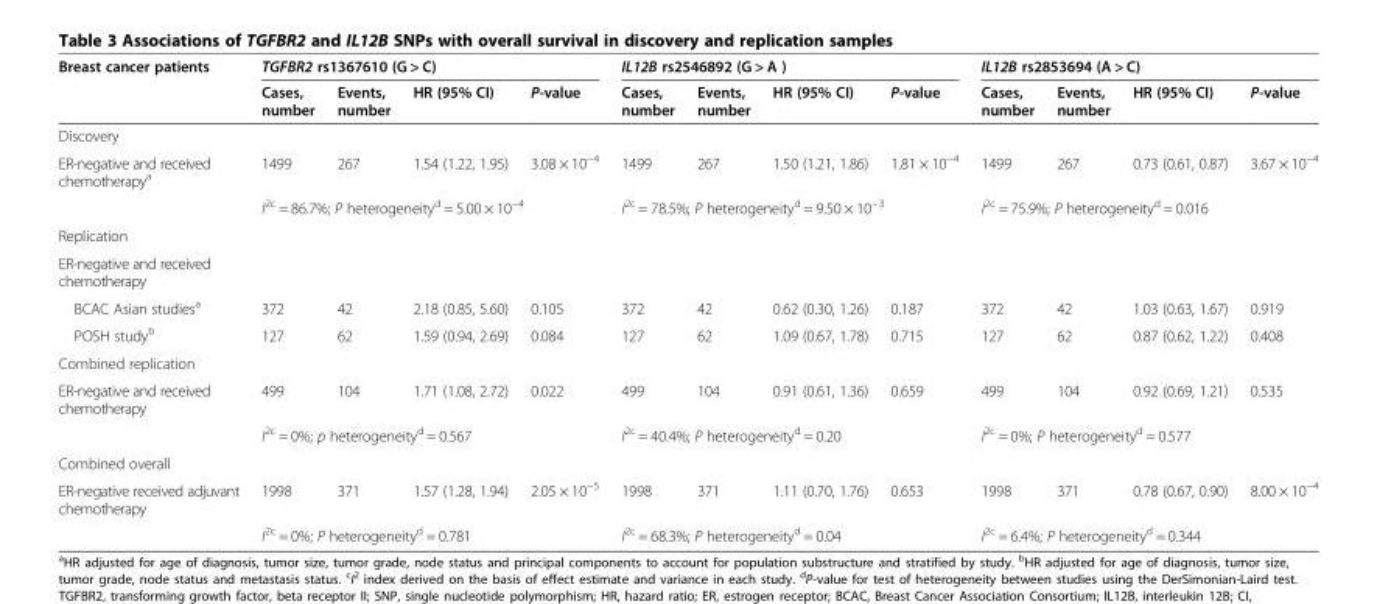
<table><thead><tr><td rowspan="2">Breast cancer patients</td><td colspan="4">TGFBR2 rs1367610 (G &gt; C)</td><td colspan="4">IL12B rs2546892 (G &gt; A )</td><td colspan="4">IL12B rs2853694 (A &gt; C)</td></tr><tr><td>Cases, number</td><td>Events, number</td><td>HR (95% CI)</td><td>P-value</td><td>Cases, number</td><td>Events, number</td><td>HR (95% CI)</td><td>P-value</td><td>Cases, number</td><td>Events, number</td><td>HR (95% CI)</td><td>P-value</td></tr></thead><tbody><tr><td colspan="13">Discovery</td></tr><tr><td rowspan="2">ER-negative and received chemotherapy<sup>a</sup></td><td>1499</td><td>267</td><td>1.54 (1.22, 1.95)</td><td>3.08 × 10<sup>−4</sup></td><td>1499</td><td>267</td><td>1.50 (1.21, 1.86)</td><td>1.81 × 10<sup>−4</sup></td><td>1499</td><td>267</td><td>0.73 (0.61, 0.87)</td><td>3.67 × 10<sup>−4</sup></td></tr><tr><td colspan="4">I<sup>2c</sup> = 86.7%; P heterogeneity<sup>d</sup> = 5.00 × 10<sup>−4</sup></td><td colspan="4">I<sup>2c</sup> = 78.5%; P heterogeneity<sup>d</sup> = 9.50 × 10<sup>−3</sup></td><td colspan="4">I<sup>2c</sup> = 75.9%; P heterogeneity<sup>d</sup> = 0.016</td></tr><tr><td colspan="13">Replication</td></tr><tr><td colspan="13">ER-negative and received chemotherapy</td></tr><tr><td>BCAC Asian studies<sup>a</sup></td><td>372</td><td>42</td><td>2.18 (0.85, 5.60)</td><td>0.105</td><td>372</td><td>42</td><td>0.62 (0.30, 1.26)</td><td>0.187</td><td>372</td><td>42</td><td>1.03 (0.63, 1.67)</td><td>0.919</td></tr><tr><td>POSH study<sup>b</sup></td><td>127</td><td>62</td><td>1.59 (0.94, 2.69)</td><td>0.084</td><td>127</td><td>62</td><td>1.09 (0.67, 1.78)</td><td>0.715</td><td>127</td><td>62</td><td>0.87 (0.62, 1.22)</td><td>0.408</td></tr><tr><td colspan="13">Combined replication</td></tr><tr><td rowspan="2">ER-negative and received chemotherapy</td><td>499</td><td>104</td><td>1.71 (1.08, 2.72)</td><td>0.022</td><td>499</td><td>104</td><td>0.91 (0.61, 1.36)</td><td>0.659</td><td>499</td><td>104</td><td>0.92 (0.69, 1.21)</td><td>0.535</td></tr><tr><td colspan="4">I<sup>2c</sup> = 0%; p heterogeneity<sup>d</sup> = 0.567</td><td colspan="4">I<sup>2c</sup> = 40.4%; P heterogeneity<sup>d</sup> = 0.20</td><td colspan="4">I<sup>2c</sup> = 0%; P heterogeneity<sup>d</sup> = 0.577</td></tr><tr><td colspan="13">Combined overall</td></tr><tr><td rowspan="2">ER-negative received adjuvant chemotherapy</td><td>1998</td><td>371</td><td>1.57 (1.28, 1.94)</td><td>2.05 × 10<sup>−5</sup></td><td>1998</td><td>371</td><td>1.11 (0.70, 1.76)</td><td>0.653</td><td>1998</td><td>371</td><td>0.78 (0.67, 0.90)</td><td>8.00 × 10<sup>−4</sup></td></tr><tr><td colspan="4">I<sup>2c</sup> = 0%; P heterogeneity<sup>d</sup> = 0.781</td><td colspan="4">I<sup>2c</sup> = 68.3%; P heterogeneity<sup>d</sup> = 0.04</td><td colspan="4">I<sup>2c</sup> = 6.4%; P heterogeneity<sup>d</sup> = 0.344</td></tr></tbody></table>